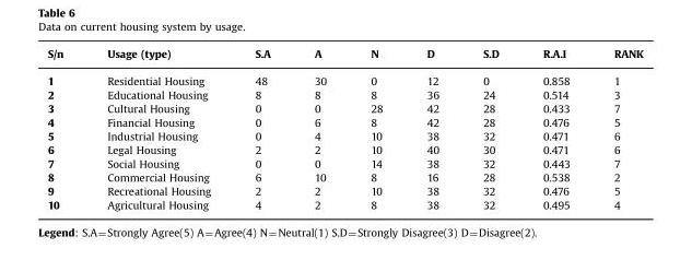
<table><thead><tr><td>S/n</td><td>Usage (type)</td><td>S.A</td><td>A</td><td>N</td><td>D</td><td>S.D</td><td>R.A.I</td><td>RANK</td></tr></thead><tbody><tr><td>1</td><td>Residential Housing</td><td>48</td><td>30</td><td>0</td><td>12</td><td>0</td><td>0.858</td><td>1</td></tr><tr><td>2</td><td>Educational Housing</td><td>8</td><td>8</td><td>8</td><td>36</td><td>24</td><td>0.514</td><td>3</td></tr><tr><td>3</td><td>Cultural Housing</td><td>0</td><td>0</td><td>28</td><td>42</td><td>28</td><td>0.433</td><td>7</td></tr><tr><td>4</td><td>Financial Housing</td><td>0</td><td>6</td><td>8</td><td>42</td><td>28</td><td>0.476</td><td>5</td></tr><tr><td>5</td><td>Industrial Housing</td><td>0</td><td>4</td><td>10</td><td>38</td><td>32</td><td>0.471</td><td>6</td></tr><tr><td>6</td><td>Legal Housing</td><td>2</td><td>2</td><td>10</td><td>40</td><td>30</td><td>0.471</td><td>6</td></tr><tr><td>7</td><td>Social Housing</td><td>0</td><td>0</td><td>14</td><td>38</td><td>32</td><td>0.443</td><td>7</td></tr><tr><td>8</td><td>Commercial Housing</td><td>6</td><td>10</td><td>8</td><td>16</td><td>28</td><td>0.538</td><td>2</td></tr><tr><td>9</td><td>Recreational Housing</td><td>2</td><td>2</td><td>10</td><td>38</td><td>32</td><td>0.476</td><td>5</td></tr><tr><td>10</td><td>Agricultural Housing</td><td>4</td><td>2</td><td>8</td><td>38</td><td>32</td><td>0.495</td><td>4</td></tr></tbody></table>